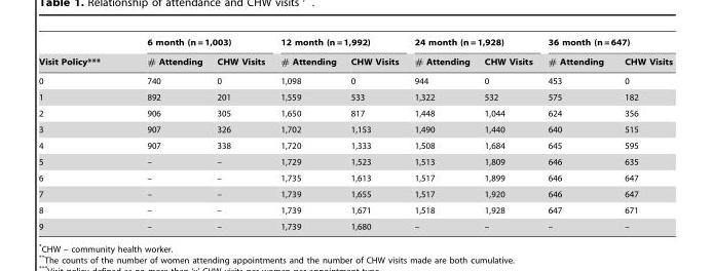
<table><thead><tr><td rowspan="2">Visit Policy***</td><td colspan="2">6 month (n = 1,003)</td><td colspan="2">12 month (n = 1,992)</td><td colspan="2">24 month (n = 1,928)</td><td colspan="2">36 month (n = 647)</td></tr><tr><td># Attending</td><td>CHW Visits</td><td># Attending</td><td>CHW Visits</td><td># Attending</td><td>CHW Visits</td><td># Attending</td><td>CHW Visits</td></tr></thead><tbody><tr><td>0</td><td>740</td><td>0</td><td>1,098</td><td>0</td><td>944</td><td>0</td><td>453</td><td>0</td></tr><tr><td>1</td><td>892</td><td>201</td><td>1,559</td><td>533</td><td>1,322</td><td>532</td><td>575</td><td>182</td></tr><tr><td>2</td><td>906</td><td>305</td><td>1,650</td><td>817</td><td>1,448</td><td>1,044</td><td>624</td><td>356</td></tr><tr><td>3</td><td>907</td><td>326</td><td>1,702</td><td>1,153</td><td>1,490</td><td>1,440</td><td>640</td><td>515</td></tr><tr><td>4</td><td>907</td><td>338</td><td>1,720</td><td>1,333</td><td>1,508</td><td>1,684</td><td>645</td><td>595</td></tr><tr><td>5</td><td>–</td><td>–</td><td>1,729</td><td>1,523</td><td>1,513</td><td>1,809</td><td>646</td><td>635</td></tr><tr><td>6</td><td>–</td><td>–</td><td>1,735</td><td>1,613</td><td>1,517</td><td>1,899</td><td>646</td><td>647</td></tr><tr><td>7</td><td>–</td><td>–</td><td>1,739</td><td>1,655</td><td>1,517</td><td>1,920</td><td>646</td><td>647</td></tr><tr><td>8</td><td>–</td><td>–</td><td>1,739</td><td>1,671</td><td>1,518</td><td>1,928</td><td>647</td><td>671</td></tr><tr><td>9</td><td>–</td><td>–</td><td>1,739</td><td>1,680</td><td>–</td><td>–</td><td>–</td><td>–</td></tr></tbody></table>